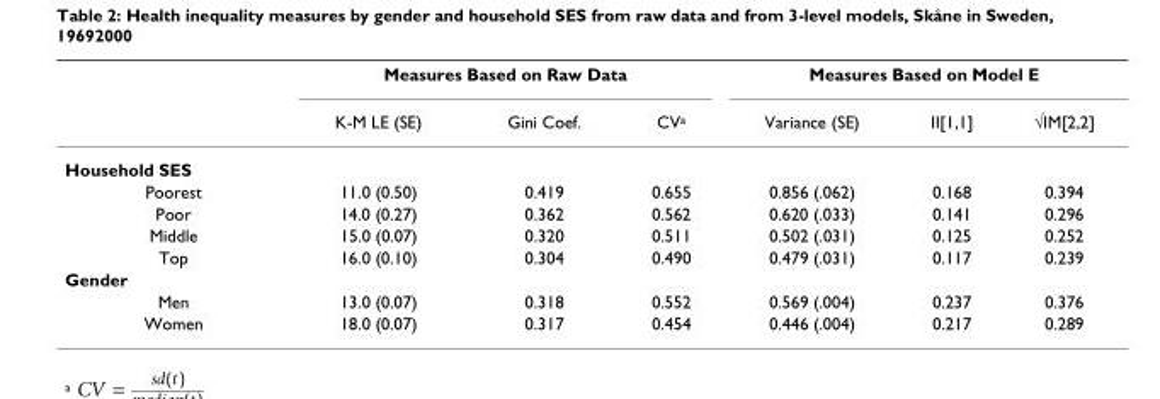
<table><thead><tr><td rowspan="2"></td><td colspan="3">Measures Based on Raw Data</td><td colspan="3">Measures Based on Model E</td></tr><tr><td>K-M LE (SE)</td><td>Gini Coef.</td><td>CV<sup>a</sup></td><td>Variance (SE)</td><td>II[1,1]</td><td>√IM[2,2]</td></tr></thead><tbody><tr><td colspan="7">Household SES</td></tr><tr><td>Poorest</td><td>11.0 (0.50)</td><td>0.419</td><td>0.655</td><td>0.856 (.062)</td><td>0.168</td><td>0.394</td></tr><tr><td>Poor</td><td>14.0 (0.27)</td><td>0.362</td><td>0.562</td><td>0.620 (.033)</td><td>0.141</td><td>0.296</td></tr><tr><td>Middle</td><td>15.0 (0.07)</td><td>0.320</td><td>0.511</td><td>0.502 (.031)</td><td>0.125</td><td>0.252</td></tr><tr><td>Top</td><td>16.0 (0.10)</td><td>0.304</td><td>0.490</td><td>0.479 (.031)</td><td>0.117</td><td>0.239</td></tr><tr><td colspan="7">Gender</td></tr><tr><td>Men</td><td>13.0 (0.07)</td><td>0.318</td><td>0.552</td><td>0.569 (.004)</td><td>0.237</td><td>0.376</td></tr><tr><td>Women</td><td>18.0 (0.07)</td><td>0.317</td><td>0.454</td><td>0.446 (.004)</td><td>0.217</td><td>0.289</td></tr></tbody></table>